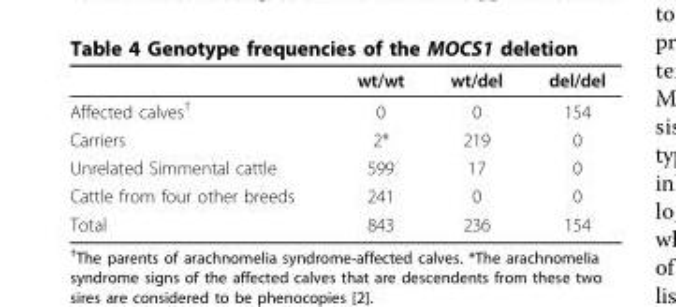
<table><thead><tr><td></td><td>wt/wt</td><td>wt/del</td><td>del/del</td></tr></thead><tbody><tr><td>Affected calves<sup>†</sup></td><td>0</td><td>0</td><td>154</td></tr><tr><td>Carriers</td><td>2*</td><td>219</td><td>0</td></tr><tr><td>Unrelated Simmental cattle</td><td>599</td><td>17</td><td>0</td></tr><tr><td>Cattle from four other breeds</td><td>241</td><td>0</td><td>0</td></tr><tr><td>Total</td><td>843</td><td>236</td><td>154</td></tr></tbody></table>